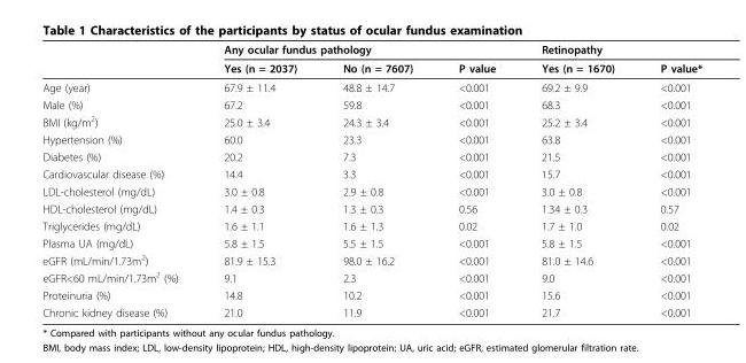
<table><thead><tr><td rowspan="2"></td><td colspan="2">Any ocular fundus pathology</td><td rowspan="2">P value</td><td colspan="2">Retinopathy</td></tr><tr><td>Yes (n = 2037)</td><td>No (n = 7607)</td><td>Yes (n = 1670)</td><td>P value*</td></tr></thead><tbody><tr><td>Age (year)</td><td>67.9 ± 11.4</td><td>48.8 ± 14.7</td><td>&lt;0.001</td><td>69.2 ± 9.9</td><td>&lt;0.001</td></tr><tr><td>Male (%)</td><td>67.2</td><td>59.8</td><td>&lt;0.001</td><td>68.3</td><td>&lt;0.001</td></tr><tr><td>BMI (kg/m<sup>2</sup>)</td><td>25.0 ± 3.4</td><td>24.3 ± 3.4</td><td>&lt;0.001</td><td>25.2 ± 3.4</td><td>&lt;0.001</td></tr><tr><td>Hypertension (%)</td><td>60.0</td><td>23.3</td><td>&lt;0.001</td><td>63.8</td><td>&lt;0.001</td></tr><tr><td>Diabetes (%)</td><td>20.2</td><td>7.3</td><td>&lt;0.001</td><td>21.5</td><td>&lt;0.001</td></tr><tr><td>Cardiovascular disease (%)</td><td>14.4</td><td>3.3</td><td>&lt;0.001</td><td>15.7</td><td>&lt;0.001</td></tr><tr><td>LDL-cholesterol (mg/dL)</td><td>3.0 ± 0.8</td><td>2.9 ± 0.8</td><td>&lt;0.001</td><td>3.0 ± 0.8</td><td>&lt;0.001</td></tr><tr><td>HDL-cholesterol (mg/dL)</td><td>1.4 ± 0.3</td><td>1.3 ± 0.3</td><td>0.56</td><td>1.34 ± 0.3</td><td>0.57</td></tr><tr><td>Triglycerides (mg/dL)</td><td>1.6 ± 1.1</td><td>1.6 ± 1.3</td><td>0.02</td><td>1.7 ± 1.0</td><td>0.02</td></tr><tr><td>Plasma UA (mg/dL)</td><td>5.8 ± 1.5</td><td>5.5 ± 1.5</td><td>&lt;0.001</td><td>5.8 ± 1.5</td><td>&lt;0.001</td></tr><tr><td>eGFR (mL/min/1.73m<sup>2</sup>)</td><td>81.9 ± 15.3</td><td>98.0 ± 16.2</td><td>&lt;0.001</td><td>81.0 ± 14.6</td><td>&lt;0.001</td></tr><tr><td>eGFR&lt;60 mL/min/1.73m<sup>2</sup> (%)</td><td>9.1</td><td>2.3</td><td>&lt;0.001</td><td>9.0</td><td>&lt;0.001</td></tr><tr><td>Proteinuria (%)</td><td>14.8</td><td>10.2</td><td>&lt;0.001</td><td>15.6</td><td>&lt;0.001</td></tr><tr><td>Chronic kidney disease (%)</td><td>21.0</td><td>11.9</td><td>&lt;0.001</td><td>21.7</td><td>&lt;0.001</td></tr></tbody></table>